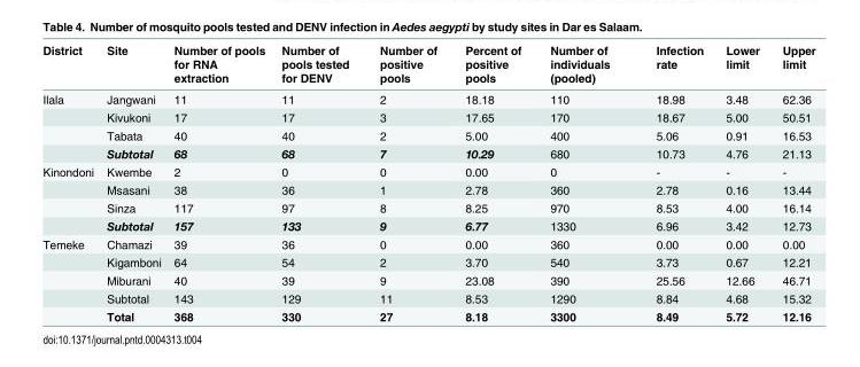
<table><thead><tr><td>District</td><td>Site</td><td>Number of pools for RNA extraction</td><td>Number of pools tested for DENV</td><td>Number of positive pools</td><td>Percent of positive pools</td><td>Number of individuals (pooled)</td><td>Infection rate</td><td>Lower limit</td><td>Upper limit</td></tr></thead><tbody><tr><td rowspan="4">Ilala</td><td>Jangwani</td><td>11</td><td>11</td><td>2</td><td>18.18</td><td>110</td><td>18.98</td><td>3.48</td><td>62.36</td></tr><tr><td>Kivukoni</td><td>17</td><td>17</td><td>3</td><td>17.65</td><td>170</td><td>18.67</td><td>5.00</td><td>50.51</td></tr><tr><td>Tabata</td><td>40</td><td>40</td><td>2</td><td>5.00</td><td>400</td><td>5.06</td><td>0.91</td><td>16.53</td></tr><tr><td>Subtotal</td><td>68</td><td>68</td><td>7</td><td>10.29</td><td>680</td><td>10.73</td><td>4.76</td><td>21.13</td></tr><tr><td rowspan="4">Kinondoni</td><td>Kwembe</td><td>2</td><td>0</td><td>0</td><td>0.00</td><td>0</td><td>-</td><td>-</td><td>-</td></tr><tr><td>Msasani</td><td>38</td><td>36</td><td>1</td><td>2.78</td><td>360</td><td>2.78</td><td>0.16</td><td>13.44</td></tr><tr><td>Sinza</td><td>117</td><td>97</td><td>8</td><td>8.25</td><td>970</td><td>8.53</td><td>4.00</td><td>16.14</td></tr><tr><td>Subtotal</td><td>157</td><td>133</td><td>9</td><td>6.77</td><td>1330</td><td>6.96</td><td>3.42</td><td>12.73</td></tr><tr><td rowspan="5">Temeke</td><td>Chamazi</td><td>39</td><td>36</td><td>0</td><td>0.00</td><td>360</td><td>0.00</td><td>0.00</td><td>0.00</td></tr><tr><td>Kigamboni</td><td>64</td><td>54</td><td>2</td><td>3.70</td><td>540</td><td>3.73</td><td>0.67</td><td>12.21</td></tr><tr><td>Miburani</td><td>40</td><td>39</td><td>9</td><td>23.08</td><td>390</td><td>25.56</td><td>12.66</td><td>46.71</td></tr><tr><td>Subtotal</td><td>143</td><td>129</td><td>11</td><td>8.53</td><td>1290</td><td>8.84</td><td>4.68</td><td>15.32</td></tr><tr><td>Total</td><td>368</td><td>330</td><td>27</td><td>8.18</td><td>3300</td><td>8.49</td><td>5.72</td><td>12.16</td></tr></tbody></table>